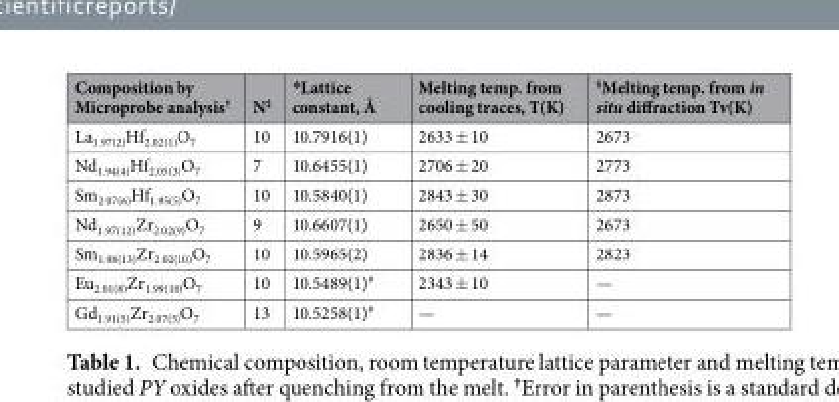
<table><thead><tr><td>Composition by Microprobe analysis<sup>†</sup></td><td>N<sup>‡</sup></td><td>*Lattice constant, Å</td><td>Melting temp. from cooling traces, T(K)</td><td><sup>§</sup>Melting temp. from in situ diffraction Tv(K)</td></tr></thead><tbody><tr><td>La<sub>1.97(2)</sub>Hf<sub>2.02(1)</sub>O<sub>7</sub></td><td>10</td><td>10.7916(1)</td><td>2633 ± 10</td><td>2673</td></tr><tr><td>Nd<sub>1.94(4)</sub>Hf<sub>2.05(3)</sub>O<sub>7</sub></td><td>7</td><td>10.6455(1)</td><td>2706 ± 20</td><td>2773</td></tr><tr><td>Sm<sub>2.07(6)</sub>Hf<sub>1.95(5)</sub>O<sub>7</sub></td><td>10</td><td>10.5840(1)</td><td>2843 ± 30</td><td>2873</td></tr><tr><td>Nd<sub>1.97(12)</sub>Zr<sub>2.02(9)</sub>O<sub>7</sub></td><td>9</td><td>10.6607(1)</td><td>2650 ± 50</td><td>2673</td></tr><tr><td>Sm<sub>1.98(13)</sub>Zr<sub>2.02(10)</sub>O<sub>7</sub></td><td>10</td><td>10.5965(2)</td><td>2836 ± 14</td><td>2823</td></tr><tr><td>Eu<sub>2.01(8)</sub>Zr<sub>1.99(10)</sub>O<sub>7</sub></td><td>10</td><td>10.5489(1)<sup>#</sup></td><td>2343 ± 10</td><td>—</td></tr><tr><td>Gd<sub>1.91(5)</sub>Zr<sub>2.07(5)</sub>O<sub>7</sub></td><td>13</td><td>10.5258(1)<sup>#</sup></td><td>—</td><td>—</td></tr></tbody></table>